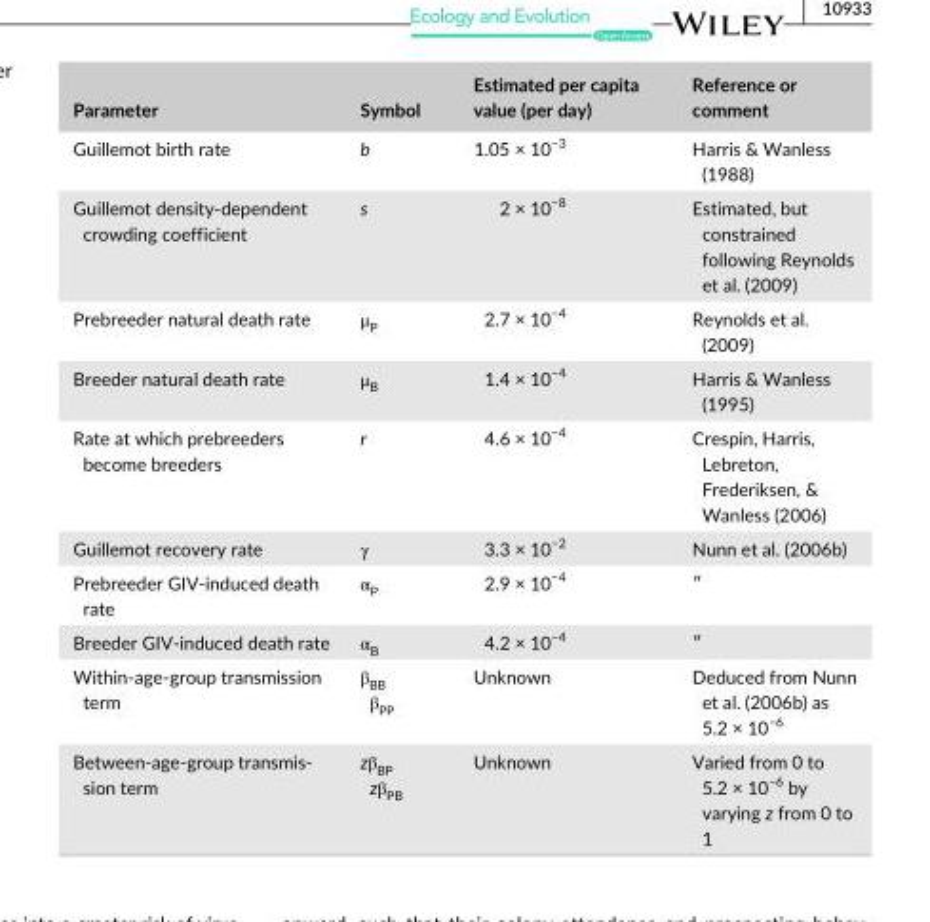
<table><thead><tr><td>Parameter</td><td>Symbol</td><td>Estimated per capita value (per day)</td><td>Reference or comment</td></tr></thead><tbody><tr><td>Guillemot birth rate</td><td>b</td><td>1.05 × 10<sup>−3</sup></td><td>Harris &amp; Wanless (1988)</td></tr><tr><td>Guillemot density- dependent crowding coefficient</td><td>s</td><td>2 × 10<sup>−8</sup></td><td>Estimated, but constrained following Reynolds et al. (2009)</td></tr><tr><td>Prebreeder natural death rate</td><td>μ<sub>P</sub></td><td>2.7 × 10<sup>−4</sup></td><td>Reynolds et al. (2009)</td></tr><tr><td>Breeder natural death rate</td><td>μ<sub>B</sub></td><td>1.4 × 10<sup>−4</sup></td><td>Harris &amp; Wanless (1995)</td></tr><tr><td>Rate at which prebreeders become breeders</td><td>r</td><td>4.6 × 10<sup>−4</sup></td><td>Crespin, Harris, Lebreton, Frederiksen, &amp; Wanless (2006)</td></tr><tr><td>Guillemot recovery rate</td><td>γ</td><td>3.3 × 10<sup>−2</sup></td><td>Nunn et al. (2006b)</td></tr><tr><td>Prebreeder GIV- induced death rate</td><td>α<sub>P</sub></td><td>2.9 × 10<sup>−4</sup></td><td>″</td></tr><tr><td>Breeder GIV- induced death rate</td><td>α<sub>B</sub></td><td>4.2 × 10<sup>−4</sup></td><td>″</td></tr><tr><td>Within- age- group transmission term</td><td>β<sub>BB</sub> β<sub>PP</sub></td><td>Unknown</td><td>Deduced from Nunn et al. (2006b) as 5.2 × 10<sup>−6</sup></td></tr><tr><td>Between- age- group transmis- sion term</td><td>zβ<sub>BP</sub> zβ<sub>PB</sub></td><td>Unknown</td><td>Varied from 0 to 5.2 × 10<sup>−6</sup> by varying z from 0 to 1</td></tr></tbody></table>